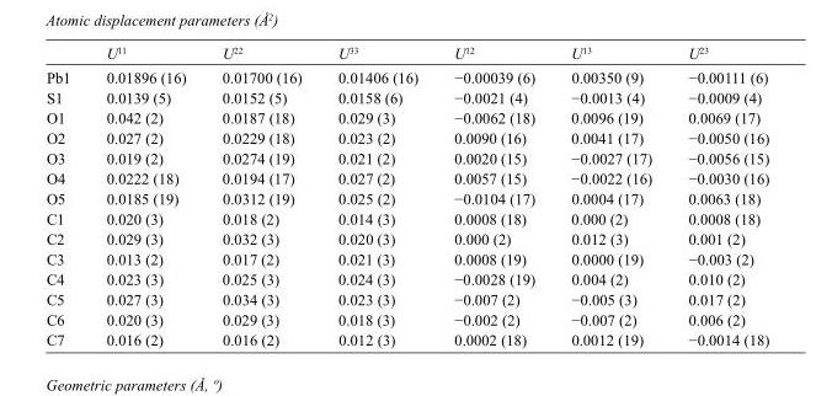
<table><thead><tr><td></td><td>U<sup>11</sup></td><td>U<sup>22</sup></td><td>U<sup>33</sup></td><td>U<sup>12</sup></td><td>U<sup>13</sup></td><td>U<sup>23</sup></td></tr></thead><tbody><tr><td>Pb1</td><td>0.01896 (16)</td><td>0.01700 (16)</td><td>0.01406 (16)</td><td>−0.00039 (6)</td><td>0.00350 (9)</td><td>−0.00111 (6)</td></tr><tr><td>S1</td><td>0.0139 (5)</td><td>0.0152 (5)</td><td>0.0158 (6)</td><td>−0.0021 (4)</td><td>−0.0013 (4)</td><td>−0.0009 (4)</td></tr><tr><td>O1</td><td>0.042 (2)</td><td>0.0187 (18)</td><td>0.029 (3)</td><td>−0.0062 (18)</td><td>0.0096 (19)</td><td>0.0069 (17)</td></tr><tr><td>O2</td><td>0.027 (2)</td><td>0.0229 (18)</td><td>0.023 (2)</td><td>0.0090 (16)</td><td>0.0041 (17)</td><td>−0.0050 (16)</td></tr><tr><td>O3</td><td>0.019 (2)</td><td>0.0274 (19)</td><td>0.021 (2)</td><td>0.0020 (15)</td><td>−0.0027 (17)</td><td>−0.0056 (15)</td></tr><tr><td>O4</td><td>0.0222 (18)</td><td>0.0194 (17)</td><td>0.027 (2)</td><td>0.0057 (15)</td><td>−0.0022 (16)</td><td>−0.0030 (16)</td></tr><tr><td>O5</td><td>0.0185 (19)</td><td>0.0312 (19)</td><td>0.025 (2)</td><td>−0.0104 (17)</td><td>0.0004 (17)</td><td>0.0063 (18)</td></tr><tr><td>C1</td><td>0.020 (3)</td><td>0.018 (2)</td><td>0.014 (3)</td><td>0.0008 (18)</td><td>0.000 (2)</td><td>0.0008 (18)</td></tr><tr><td>C2</td><td>0.029 (3)</td><td>0.032 (3)</td><td>0.020 (3)</td><td>0.000 (2)</td><td>0.012 (3)</td><td>0.001 (2)</td></tr><tr><td>C3</td><td>0.013 (2)</td><td>0.017 (2)</td><td>0.021 (3)</td><td>0.0008 (19)</td><td>0.0000 (19)</td><td>−0.003 (2)</td></tr><tr><td>C4</td><td>0.023 (3)</td><td>0.025 (3)</td><td>0.024 (3)</td><td>−0.0028 (19)</td><td>0.004 (2)</td><td>0.010 (2)</td></tr><tr><td>C5</td><td>0.027 (3)</td><td>0.034 (3)</td><td>0.023 (3)</td><td>−0.007 (2)</td><td>−0.005 (3)</td><td>0.017 (2)</td></tr><tr><td>C6</td><td>0.020 (3)</td><td>0.029 (3)</td><td>0.018 (3)</td><td>−0.002 (2)</td><td>−0.007 (2)</td><td>0.006 (2)</td></tr><tr><td>C7</td><td>0.016 (2)</td><td>0.016 (2)</td><td>0.012 (3)</td><td>0.0002 (18)</td><td>0.0012 (19)</td><td>−0.0014 (18)</td></tr></tbody></table>